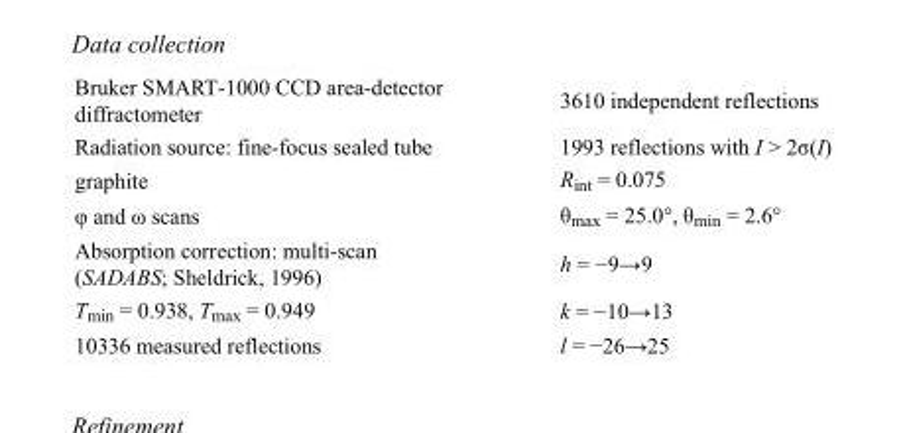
<table><tbody><tr><td>Bruker SMART-1000 CCD area-detector diffractometer</td><td>3610 independent reflections</td></tr><tr><td>Radiation source: fine-focus sealed tube</td><td>1993 reflections with I &gt; 2σ(I)</td></tr><tr><td>graphite</td><td>R<sub>int</sub> = 0.075</td></tr><tr><td>φ and ω scans</td><td>θ<sub>max</sub> = 25.0°, θ<sub>min</sub> = 2.6°</td></tr><tr><td>Absorption correction: multi-scan (SADABS; Sheldrick, 1996)</td><td>h = −9→9</td></tr><tr><td>T<sub>min</sub> = 0.938, T<sub>max</sub> = 0.949</td><td>k = −10→13</td></tr><tr><td>10336 measured reflections</td><td>l = −26→25</td></tr></tbody></table>